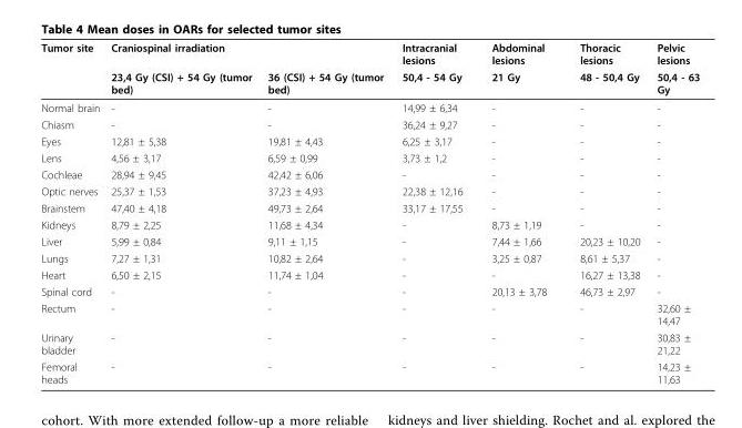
<table><thead><tr><td rowspan="2">Tumor site</td><td colspan="2">Craniospinal irradiation</td><td rowspan="2">Intracranial lesions 50,4 - 54 Gy</td><td rowspan="2">Abdominal lesions 21 Gy</td><td rowspan="2">Thoracic lesions 48 - 50,4 Gy</td><td rowspan="2">Pelvic lesions 50,4 - 63 Gy</td></tr><tr><td>23,4 Gy (CSI) + 54 Gy (tumor bed)</td><td>36 (CSI) + 54 Gy (tumor bed)</td></tr></thead><tbody><tr><td>Normal brain</td><td>-</td><td>-</td><td>14,99 ± 6,34</td><td>-</td><td>-</td><td>-</td></tr><tr><td>Chiasm</td><td>-</td><td>-</td><td>36,24 ± 9,27</td><td>-</td><td>-</td><td>-</td></tr><tr><td>Eyes</td><td>12,81 ± 5,38</td><td>19,81 ± 4,43</td><td>6,25 ± 3,17</td><td>-</td><td>-</td><td>-</td></tr><tr><td>Lens</td><td>4,56 ± 3,17</td><td>6,59 ± 0,99</td><td>3,73 ± 1,2</td><td>-</td><td>-</td><td>-</td></tr><tr><td>Cochleae</td><td>28,94 ± 9,45</td><td>42,42 ± 6,06</td><td>-</td><td>-</td><td>-</td><td>-</td></tr><tr><td>Optic nerves</td><td>25,37 ± 1,53</td><td>37,23 ± 4,93</td><td>22,38 ± 12,16</td><td>-</td><td>-</td><td>-</td></tr><tr><td>Brainstem</td><td>47,40 ± 4,18</td><td>49,73 ± 2,64</td><td>33,17 ± 17,55</td><td>-</td><td>-</td><td>-</td></tr><tr><td>Kidneys</td><td>8,79 ± 2,25</td><td>11,68 ± 4,34</td><td>-</td><td>8,73 ± 1,19</td><td>-</td><td>-</td></tr><tr><td>Liver</td><td>5,99 ± 0,84</td><td>9,11 ± 1,15</td><td>-</td><td>7,44 ± 1,66</td><td>20,23 ± 10,20</td><td>-</td></tr><tr><td>Lungs</td><td>7,27 ± 1,31</td><td>10,82 ± 2,64</td><td>-</td><td>3,25 ± 0,87</td><td>8,61 ± 5,37</td><td>-</td></tr><tr><td>Heart</td><td>6,50 ± 2,15</td><td>11,74 ± 1,04</td><td>-</td><td>-</td><td>16,27 ± 13,38</td><td>-</td></tr><tr><td>Spinal cord</td><td>-</td><td>-</td><td>-</td><td>20,13 ± 3,78</td><td>46,73 ± 2,97</td><td>-</td></tr><tr><td>Rectum</td><td>-</td><td>-</td><td>-</td><td>-</td><td>-</td><td>32,60 ± 14,47</td></tr><tr><td>Urinary bladder</td><td>-</td><td>-</td><td>-</td><td>-</td><td>-</td><td>30,83 ± 21,22</td></tr><tr><td>Femoral heads</td><td>-</td><td>-</td><td>-</td><td>-</td><td>-</td><td>14,23 ± 11,63</td></tr></tbody></table>